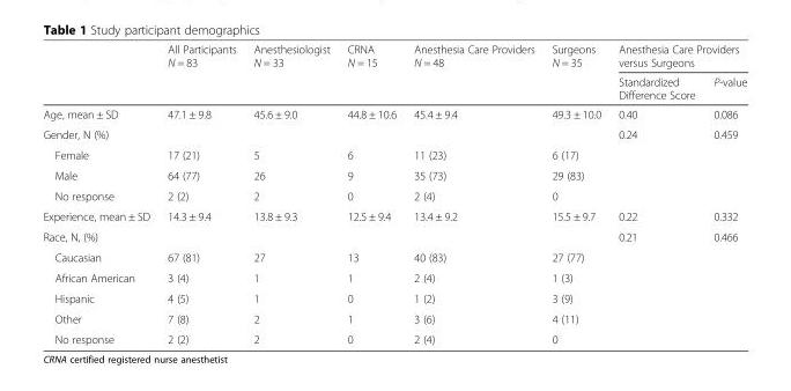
<table><thead><tr><td rowspan="2"></td><td rowspan="2">All Participants N = 83</td><td rowspan="2">Anesthesiologist N = 33</td><td rowspan="2">CRNA N = 15</td><td rowspan="2">Anesthesia Care Providers N = 48</td><td rowspan="2">Surgeons N = 35</td><td colspan="2">Anesthesia Care Providers versus Surgeons</td></tr><tr><td>Standardized Difference Score</td><td>P-value</td></tr></thead><tbody><tr><td>Age, mean ± SD</td><td>47.1 ± 9.8</td><td>45.6 ± 9.0</td><td>44.8 ± 10.6</td><td>45.4 ± 9.4</td><td>49.3 ± 10.0</td><td>0.40</td><td>0.086</td></tr><tr><td>Gender, N (%)</td><td></td><td></td><td></td><td></td><td></td><td>0.24</td><td>0.459</td></tr><tr><td>Female</td><td>17 (21)</td><td>5</td><td>6</td><td>11 (23)</td><td>6 (17)</td><td></td><td></td></tr><tr><td>Male</td><td>64 (77)</td><td>26</td><td>9</td><td>35 (73)</td><td>29 (83)</td><td></td><td></td></tr><tr><td>No response</td><td>2 (2)</td><td>2</td><td>0</td><td>2 (4)</td><td>0</td><td></td><td></td></tr><tr><td>Experience, mean ± SD</td><td>14.3 ± 9.4</td><td>13.8 ± 9.3</td><td>12.5 ± 9.4</td><td>13.4 ± 9.2</td><td>15.5 ± 9.7</td><td>0.22</td><td>0.332</td></tr><tr><td>Race, N, (%)</td><td></td><td></td><td></td><td></td><td></td><td>0.21</td><td>0.466</td></tr><tr><td>Caucasian</td><td>67 (81)</td><td>27</td><td>13</td><td>40 (83)</td><td>27 (77)</td><td></td><td></td></tr><tr><td>African American</td><td>3 (4)</td><td>1</td><td>1</td><td>2 (4)</td><td>1 (3)</td><td></td><td></td></tr><tr><td>Hispanic</td><td>4 (5)</td><td>1</td><td>0</td><td>1 (2)</td><td>3 (9)</td><td></td><td></td></tr><tr><td>Other</td><td>7 (8)</td><td>2</td><td>1</td><td>3 (6)</td><td>4 (11)</td><td></td><td></td></tr><tr><td>No response</td><td>2 (2)</td><td>2</td><td>0</td><td>2 (4)</td><td>0</td><td></td><td></td></tr></tbody></table>